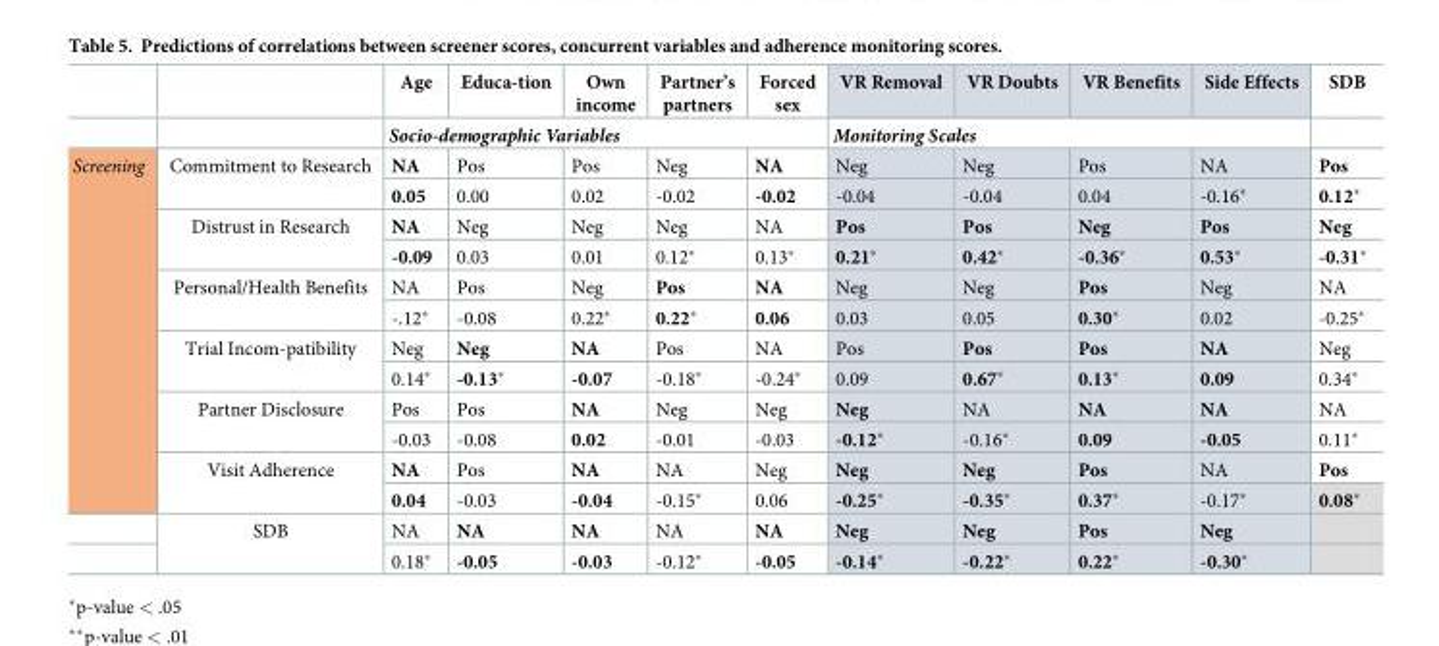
<table><thead><tr><td rowspan="2"></td><td rowspan="2"></td><td>Age</td><td>Educa-tion</td><td>Own income</td><td>Partner’s partners</td><td>Forced sex</td><td>VR Removal</td><td>VR Doubts</td><td>VR Benefits</td><td>Side Effects</td><td rowspan="2">SDB</td></tr><tr><td colspan="5">Socio-demographic Variables</td><td colspan="4">Monitoring Scales</td></tr></thead><tbody><tr><td rowspan="14">Screening</td><td rowspan="2">Commitment to Research</td><td>NA</td><td>Pos</td><td>Pos</td><td>Neg</td><td>NA</td><td>Neg</td><td>Neg</td><td>Pos</td><td>NA</td><td>Pos</td></tr><tr><td>0.05</td><td>0.00</td><td>0.02</td><td>-0.02</td><td>-0.02</td><td>-0.04</td><td>-0.04</td><td>0.04</td><td>-0.16*</td><td>0.12*</td></tr><tr><td rowspan="2">Distrust in Research</td><td>NA</td><td>Neg</td><td>Neg</td><td>Neg</td><td>NA</td><td>Pos</td><td>Pos</td><td>Neg</td><td>Pos</td><td>Neg</td></tr><tr><td>-0.09</td><td>0.03</td><td>0.01</td><td>0.12*</td><td>0.13*</td><td>0.21*</td><td>0.42*</td><td>-0.36*</td><td>0.53*</td><td>-0.31*</td></tr><tr><td rowspan="2">Personal/Health Benefits</td><td>NA</td><td>Pos</td><td>Neg</td><td>Pos</td><td>NA</td><td>Neg</td><td>Neg</td><td>Pos</td><td>Neg</td><td>NA</td></tr><tr><td>-.12*</td><td>-0.08</td><td>0.22*</td><td>0.22*</td><td>0.06</td><td>0.03</td><td>0.05</td><td>0.30*</td><td>0.02</td><td>-0.25*</td></tr><tr><td rowspan="2">Trial Incom-patibility</td><td>Neg</td><td>Neg</td><td>NA</td><td>Pos</td><td>NA</td><td>Pos</td><td>Pos</td><td>Pos</td><td>NA</td><td>Neg</td></tr><tr><td>0.14*</td><td>-0.13*</td><td>-0.07</td><td>-0.18*</td><td>-0.24*</td><td>0.09</td><td>0.67*</td><td>0.13*</td><td>0.09</td><td>0.34*</td></tr><tr><td rowspan="2">Partner Disclosure</td><td>Pos</td><td>Pos</td><td>NA</td><td>Neg</td><td>Neg</td><td>Neg</td><td>NA</td><td>NA</td><td>NA</td><td>NA</td></tr><tr><td>-0.03</td><td>-0.08</td><td>0.02</td><td>-0.01</td><td>-0.03</td><td>-0.12*</td><td>-0.16*</td><td>0.09</td><td>-0.05</td><td>0.11*</td></tr><tr><td rowspan="2">Visit Adherence</td><td>NA</td><td>Pos</td><td>NA</td><td>NA</td><td>Neg</td><td>Neg</td><td>Neg</td><td>Pos</td><td>NA</td><td>Pos</td></tr><tr><td>0.04</td><td>-0.03</td><td>-0.04</td><td>-0.15*</td><td>0.06</td><td>-0.25*</td><td>-0.35*</td><td>0.37*</td><td>-0.17*</td><td>0.08*</td></tr><tr><td rowspan="2">SDB</td><td>NA</td><td>NA</td><td>NA</td><td>NA</td><td>NA</td><td>Neg</td><td>Neg</td><td>Pos</td><td>Neg</td><td></td></tr><tr><td>0.18*</td><td>-0.05</td><td>-0.03</td><td>-0.12*</td><td>-0.05</td><td>-0.14*</td><td>-0.22*</td><td>0.22*</td><td>-0.30*</td><td></td></tr></tbody></table>